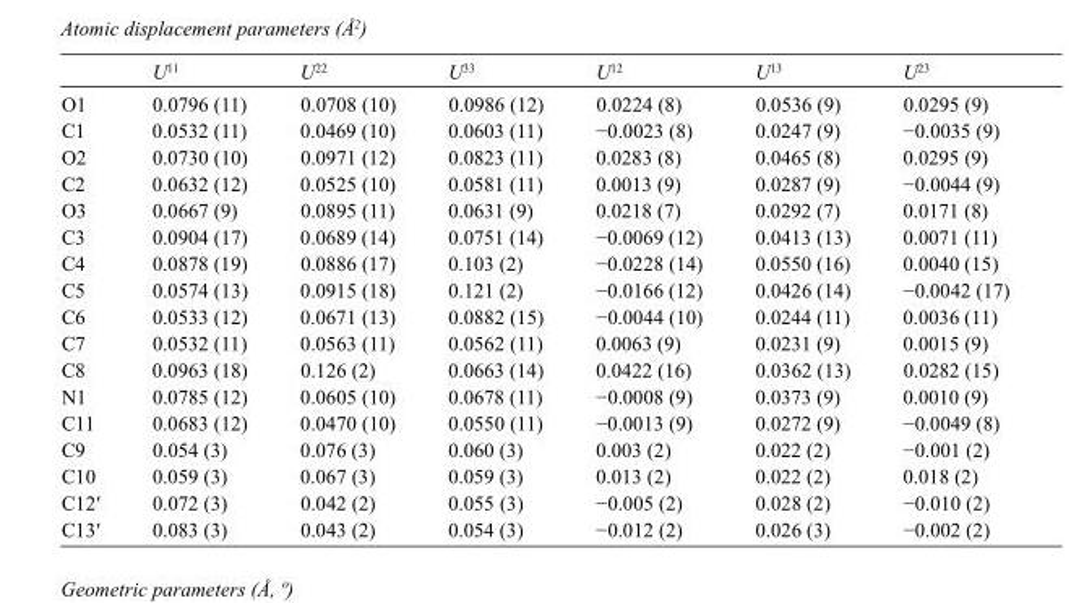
<table><thead><tr><td></td><td>U<sup>11</sup></td><td>U<sup>22</sup></td><td>U<sup>33</sup></td><td>U<sup>12</sup></td><td>U<sup>13</sup></td><td>U<sup>23</sup></td></tr></thead><tbody><tr><td>O1</td><td>0.0796 (11)</td><td>0.0708 (10)</td><td>0.0986 (12)</td><td>0.0224 (8)</td><td>0.0536 (9)</td><td>0.0295 (9)</td></tr><tr><td>C1</td><td>0.0532 (11)</td><td>0.0469 (10)</td><td>0.0603 (11)</td><td>−0.0023 (8)</td><td>0.0247 (9)</td><td>−0.0035 (9)</td></tr><tr><td>O2</td><td>0.0730 (10)</td><td>0.0971 (12)</td><td>0.0823 (11)</td><td>0.0283 (8)</td><td>0.0465 (8)</td><td>0.0295 (9)</td></tr><tr><td>C2</td><td>0.0632 (12)</td><td>0.0525 (10)</td><td>0.0581 (11)</td><td>0.0013 (9)</td><td>0.0287 (9)</td><td>−0.0044 (9)</td></tr><tr><td>O3</td><td>0.0667 (9)</td><td>0.0895 (11)</td><td>0.0631 (9)</td><td>0.0218 (7)</td><td>0.0292 (7)</td><td>0.0171 (8)</td></tr><tr><td>C3</td><td>0.0904 (17)</td><td>0.0689 (14)</td><td>0.0751 (14)</td><td>−0.0069 (12)</td><td>0.0413 (13)</td><td>0.0071 (11)</td></tr><tr><td>C4</td><td>0.0878 (19)</td><td>0.0886 (17)</td><td>0.103 (2)</td><td>−0.0228 (14)</td><td>0.0550 (16)</td><td>0.0040 (15)</td></tr><tr><td>C5</td><td>0.0574 (13)</td><td>0.0915 (18)</td><td>0.121 (2)</td><td>−0.0166 (12)</td><td>0.0426 (14)</td><td>−0.0042 (17)</td></tr><tr><td>C6</td><td>0.0533 (12)</td><td>0.0671 (13)</td><td>0.0882 (15)</td><td>−0.0044 (10)</td><td>0.0244 (11)</td><td>0.0036 (11)</td></tr><tr><td>C7</td><td>0.0532 (11)</td><td>0.0563 (11)</td><td>0.0562 (11)</td><td>0.0063 (9)</td><td>0.0231 (9)</td><td>0.0015 (9)</td></tr><tr><td>C8</td><td>0.0963 (18)</td><td>0.126 (2)</td><td>0.0663 (14)</td><td>0.0422 (16)</td><td>0.0362 (13)</td><td>0.0282 (15)</td></tr><tr><td>N1</td><td>0.0785 (12)</td><td>0.0605 (10)</td><td>0.0678 (11)</td><td>−0.0008 (9)</td><td>0.0373 (9)</td><td>0.0010 (9)</td></tr><tr><td>C11</td><td>0.0683 (12)</td><td>0.0470 (10)</td><td>0.0550 (11)</td><td>−0.0013 (9)</td><td>0.0272 (9)</td><td>−0.0049 (8)</td></tr><tr><td>C9</td><td>0.054 (3)</td><td>0.076 (3)</td><td>0.060 (3)</td><td>0.003 (2)</td><td>0.022 (2)</td><td>−0.001 (2)</td></tr><tr><td>C10</td><td>0.059 (3)</td><td>0.067 (3)</td><td>0.059 (3)</td><td>0.013 (2)</td><td>0.022 (2)</td><td>0.018 (2)</td></tr><tr><td>C12′</td><td>0.072 (3)</td><td>0.042 (2)</td><td>0.055 (3)</td><td>−0.005 (2)</td><td>0.028 (2)</td><td>−0.010 (2)</td></tr><tr><td>C13′</td><td>0.083 (3)</td><td>0.043 (2)</td><td>0.054 (3)</td><td>−0.012 (2)</td><td>0.026 (3)</td><td>−0.002 (2)</td></tr></tbody></table>